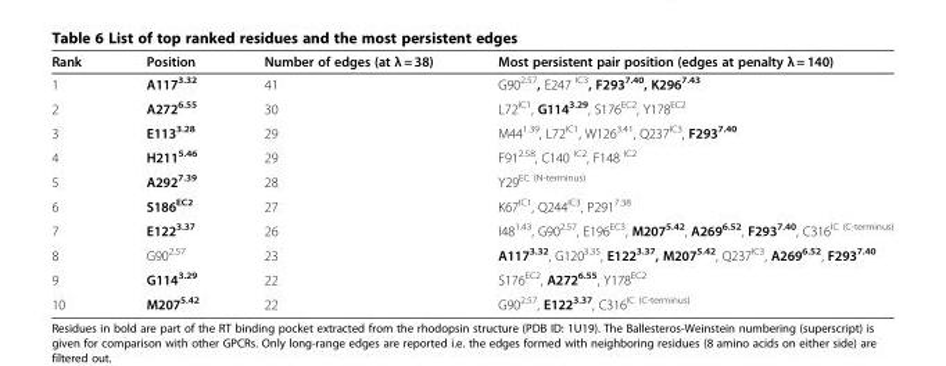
<table><thead><tr><td>Rank</td><td>Position</td><td>Number of edges (at λ = 38)</td><td>Most persistent pair position (edges at penalty λ = 140)</td></tr></thead><tbody><tr><td>1</td><td>A117<sup>3.32</sup></td><td>41</td><td>G90<sup>2.57</sup>, E247 <sup>IC3</sup>, F293<sup>7.40</sup>, K296<sup>7.43</sup></td></tr><tr><td>2</td><td>A272<sup>6.55</sup></td><td>30</td><td>L72<sup>IC1</sup>, G114<sup>3.29</sup>, S176<sup>EC2</sup>, Y178<sup>EC2</sup></td></tr><tr><td>3</td><td>E113<sup>3.28</sup></td><td>29</td><td>M44<sup>1.39</sup>, L72<sup>IC1</sup>, W126<sup>3.41</sup>, Q237<sup>IC3</sup>, F293<sup>7.40</sup></td></tr><tr><td>4</td><td>H211<sup>5.46</sup></td><td>29</td><td>F91<sup>2.58</sup>, C140 <sup>IC2</sup>, F148 <sup>IC2</sup></td></tr><tr><td>5</td><td>A292<sup>7.39</sup></td><td>28</td><td>Y29<sup>EC (N-terminus)</sup></td></tr><tr><td>6</td><td>S186<sup>EC2</sup></td><td>27</td><td>K67<sup>IC1</sup>, Q244<sup>IC3</sup>, P291<sup>7.38</sup></td></tr><tr><td>7</td><td>E122<sup>3.37</sup></td><td>26</td><td>I48<sup>1.43</sup>, G90<sup>2.57</sup>, E196<sup>EC3</sup>, M207<sup>5.42</sup>, A269<sup>6.52</sup>, F293<sup>7.40</sup>, C316<sup>IC (C-terminus)</sup></td></tr><tr><td>8</td><td>G90<sup>2.57</sup></td><td>23</td><td>A117<sup>3.32</sup>, G120<sup>3.35</sup>, E122<sup>3.37</sup>, M207<sup>5.42</sup>, Q237<sup>IC3</sup>, A269<sup>6.52</sup>, F293<sup>7.40</sup></td></tr><tr><td>9</td><td>G114<sup>3.29</sup></td><td>22</td><td>S176<sup>EC2</sup>, A272<sup>6.55</sup>, Y178<sup>EC2</sup></td></tr><tr><td>10</td><td>M207<sup>5.42</sup></td><td>22</td><td>G90<sup>2.57</sup>, E122<sup>3.37</sup>, C316<sup>IC (C-terminus)</sup></td></tr></tbody></table>